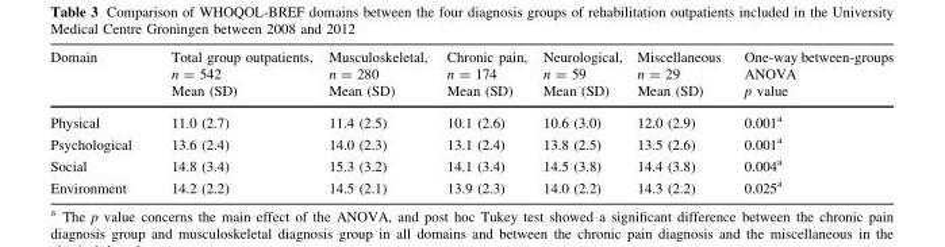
<table><thead><tr><td>Domain</td><td>Total group outpatients, n = 542 Mean (SD)</td><td>Musculoskeletal, n = 280 Mean (SD)</td><td>Chronic pain, n = 174 Mean (SD)</td><td>Neurological, n = 59 Mean (SD)</td><td>Miscellaneous n = 29 Mean (SD)</td><td>One-way between-groups ANOVA p value</td></tr></thead><tbody><tr><td>Physical</td><td>11.0 (2.7)</td><td>11.4 (2.5)</td><td>10.1 (2.6)</td><td>10.6 (3.0)</td><td>12.0 (2.9)</td><td>0.001<sup>a</sup></td></tr><tr><td>Psychological</td><td>13.6 (2.4)</td><td>14.0 (2.3)</td><td>13.1 (2.4)</td><td>13.8 (2.5)</td><td>13.5 (2.6)</td><td>0.001<sup>a</sup></td></tr><tr><td>Social</td><td>14.8 (3.4)</td><td>15.3 (3.2)</td><td>14.1 (3.4)</td><td>14.5 (3.8)</td><td>14.4 (3.8)</td><td>0.004<sup>a</sup></td></tr><tr><td>Environment</td><td>14.2 (2.2)</td><td>14.5 (2.1)</td><td>13.9 (2.3)</td><td>14.0 (2.2)</td><td>14.3 (2.2)</td><td>0.025<sup>a</sup></td></tr></tbody></table>